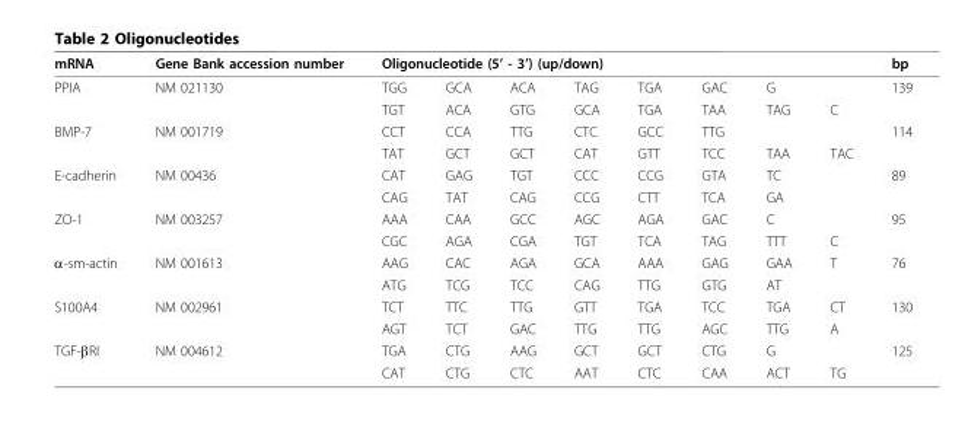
<table><thead><tr><td rowspan="2">mRNA PPIA</td><td rowspan="2">Gene Bank accession number NM 021130</td><td colspan="8">Oligonucleotide (5’ - 3’) (up/down)</td><td rowspan="2">bp 139</td></tr><tr><td>TGG</td><td>GCA</td><td>ACA</td><td>TAG</td><td>TGA</td><td>GAC</td><td>G</td><td></td></tr></thead><tbody><tr><td></td><td></td><td>TGT</td><td>ACA</td><td>GTG</td><td>GCA</td><td>TGA</td><td>TAA</td><td>TAG</td><td>C</td><td></td></tr><tr><td rowspan="2">BMP-7</td><td>NM 001719</td><td>CCT</td><td>CCA</td><td>TTG</td><td>CTC</td><td>GCC</td><td>TTG</td><td></td><td></td><td>114</td></tr><tr><td></td><td>TAT</td><td>GCT</td><td>GCT</td><td>CAT</td><td>GTT</td><td>TCC</td><td>TAA</td><td>TAC</td><td></td></tr><tr><td rowspan="2">E-cadherin</td><td>NM 00436</td><td>CAT</td><td>GAG</td><td>TGT</td><td>CCC</td><td>CCG</td><td>GTA</td><td>TC</td><td></td><td>89</td></tr><tr><td></td><td>CAG</td><td>TAT</td><td>CAG</td><td>CCG</td><td>CTT</td><td>TCA</td><td>GA</td><td></td><td></td></tr><tr><td rowspan="2">ZO-1</td><td>NM 003257</td><td>AAA</td><td>CAA</td><td>GCC</td><td>AGC</td><td>AGA</td><td>GAC</td><td>C</td><td></td><td>95</td></tr><tr><td></td><td>CGC</td><td>AGA</td><td>CGA</td><td>TGT</td><td>TCA</td><td>TAG</td><td>TTT</td><td>C</td><td></td></tr><tr><td rowspan="2">α-sm-actin</td><td>NM 001613</td><td>AAG</td><td>CAC</td><td>AGA</td><td>GCA</td><td>AAA</td><td>GAG</td><td>GAA</td><td>T</td><td>76</td></tr><tr><td></td><td>ATG</td><td>TCG</td><td>TCC</td><td>CAG</td><td>TTG</td><td>GTG</td><td>AT</td><td></td><td></td></tr><tr><td rowspan="2">S100A4</td><td>NM 002961</td><td>TCT</td><td>TTC</td><td>TTG</td><td>GTT</td><td>TGA</td><td>TCC</td><td>TGA</td><td>CT</td><td>130</td></tr><tr><td></td><td>AGT</td><td>TCT</td><td>GAC</td><td>TTG</td><td>TTG</td><td>AGC</td><td>TTG</td><td>A</td><td></td></tr><tr><td rowspan="2">TGF-βRI</td><td>NM 004612</td><td>TGA</td><td>CTG</td><td>AAG</td><td>GCT</td><td>GCT</td><td>CTG</td><td>G</td><td></td><td>125</td></tr><tr><td></td><td>CAT</td><td>CTG</td><td>CTC</td><td>AAT</td><td>CTC</td><td>CAA</td><td>ACT</td><td>TG</td><td></td></tr></tbody></table>